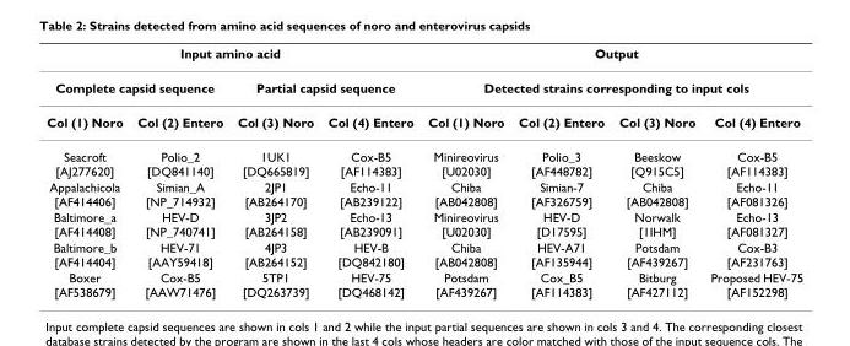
<table><thead><tr><td colspan="4">Input amino acid</td><td rowspan="2" colspan="4">Output Detected strains corresponding to input cols</td></tr><tr><td colspan="2">Complete capsid sequence</td><td colspan="2">Partial capsid sequence</td></tr><tr><td>Col (1) Noro</td><td>Col (2) Entero</td><td>Col (3) Noro</td><td>Col (4) Entero</td><td>Col (1) Noro</td><td>Col (2) Entero</td><td>Col (3) Noro</td><td>Col (4) Entero</td></tr></thead><tbody><tr><td>Seacroft [AJ277620]</td><td>Polio_2 [DQ841140]</td><td>1UK1 [DQ665819]</td><td>Cox-B5 [AF114383]</td><td>Minireovirus [U02030]</td><td>Polio_3 [AF448782]</td><td>Beeskow [Q915C5]</td><td>Cox-B5 [AF114383]</td></tr><tr><td>Appalachicola [AF414406]</td><td>Simian_A [NP_714932]</td><td>2JP1 [AB264170]</td><td>Echo-11 [AB239122]</td><td>Chiba [AB042808]</td><td>Simian-7 [AF326759]</td><td>Chiba [AB042808]</td><td>Echo-11 [AF081326]</td></tr><tr><td>Baltimore_a [AF414408]</td><td>HEV-D [NP_740741]</td><td>3JP2 [AB264158]</td><td>Echo-13 [AB239091]</td><td>Minireovirus [U02030]</td><td>HEV-D [D17595]</td><td>Norwalk [1IHM]</td><td>Echo-13 [AF081327]</td></tr><tr><td>Baltimore_b [AF414404]</td><td>HEV-71 [AAY59418]</td><td>4JP3 [AB264152]</td><td>HEV-B [DQ842180]</td><td>Chiba [AB042808]</td><td>HEV-A71 [AF135944]</td><td>Potsdam [AF439267]</td><td>Cox-B3 [AF231763]</td></tr><tr><td>Boxer [AF538679]</td><td>Cox-B5 [AAW71476]</td><td>5TP1 [DQ263739]</td><td>HEV-75 [DQ468142]</td><td>Potsdam [AF439267]</td><td>Cox_B5 [AF114383]</td><td>Bitburg [AF427112]</td><td>Proposed HEV-75 [AF152298]</td></tr></tbody></table>